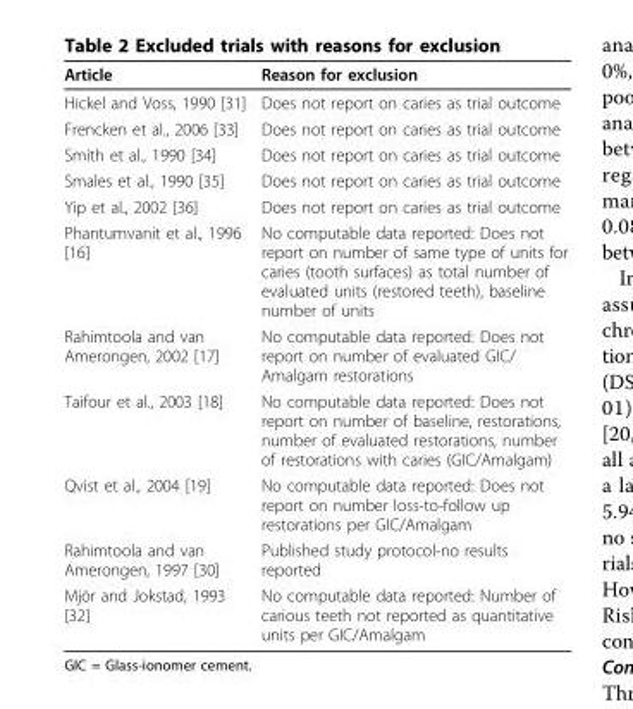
<table><thead><tr><td>Article</td><td>Reason for exclusion</td></tr></thead><tbody><tr><td>Hickel and Voss, 1990 [31]</td><td>Does not report on caries as trial outcome</td></tr><tr><td>Frencken et al., 2006 [33]</td><td>Does not report on caries as trial outcome</td></tr><tr><td>Smith et al., 1990 [34]</td><td>Does not report on caries as trial outcome</td></tr><tr><td>Smales et al., 1990 [35]</td><td>Does not report on caries as trial outcome</td></tr><tr><td>Yip et al., 2002 [36]</td><td>Does not report on caries as trial outcome</td></tr><tr><td>Phantumvanit et al., 1996 [16]</td><td>No computable data reported: Does not report on number of same type of units for caries (tooth surfaces) as total number of evaluated units (restored teeth), baseline number of units</td></tr><tr><td>Rahimtoola and van Amerongen, 2002 [17]</td><td>No computable data reported: Does not report on number of evaluated GIC/ Amalgam restorations</td></tr><tr><td>Taifour et al., 2003 [18]</td><td>No computable data reported: Does not report on number of baseline, restorations, number of evaluated restorations, number of restorations with caries (GIC/Amalgam)</td></tr><tr><td>Qvist et al., 2004 [19]</td><td>No computable data reported: Does not report on number loss-to-follow up restorations per GIC/Amalgam</td></tr><tr><td>Rahimtoola and van Amerongen, 1997 [30]</td><td>Published study protocol-no results reported</td></tr><tr><td>Mjör and Jokstad, 1993 [32]</td><td>No computable data reported: Number of carious teeth not reported as quantitative units per GIC/Amalgam</td></tr></tbody></table>